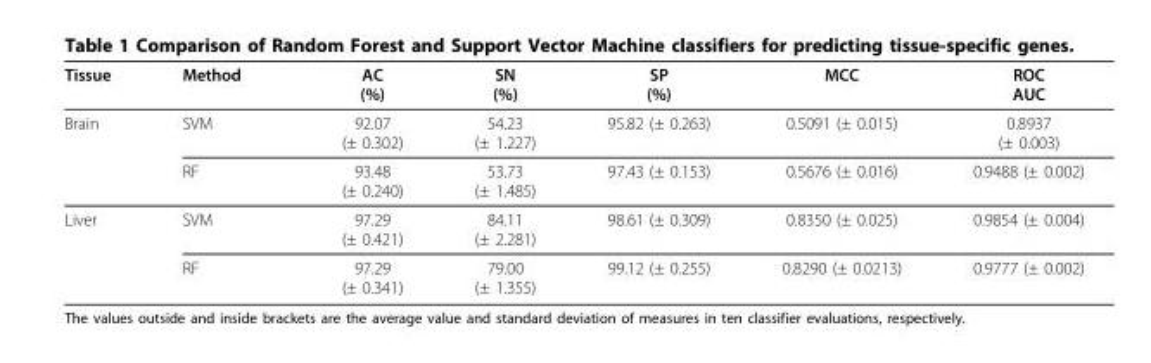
<table><thead><tr><td>Tissue</td><td>Method</td><td>AC (%)</td><td>SN (%)</td><td>SP (%)</td><td>MCC</td><td>ROC AUC</td></tr></thead><tbody><tr><td rowspan="2">Brain</td><td>SVM</td><td>92.07 (± 0.302)</td><td>54.23 (± 1.227)</td><td>95.82 (± 0.263)</td><td>0.5091 (± 0.015)</td><td>0.8937 (± 0.003)</td></tr><tr><td>RF</td><td>93.48 (± 0.240)</td><td>53.73 (± 1.485)</td><td>97.43 (± 0.153)</td><td>0.5676 (± 0.016)</td><td>0.9488 (± 0.002)</td></tr><tr><td rowspan="2">Liver</td><td>SVM</td><td>97.29 (± 0.421)</td><td>84.11 (± 2.281)</td><td>98.61 (± 0.309)</td><td>0.8350 (± 0.025)</td><td>0.9854 (± 0.004)</td></tr><tr><td>RF</td><td>97.29 (± 0.341)</td><td>79.00 (± 1.355)</td><td>99.12 (± 0.255)</td><td>0.8290 (± 0.0213)</td><td>0.9777 (± 0.002)</td></tr></tbody></table>